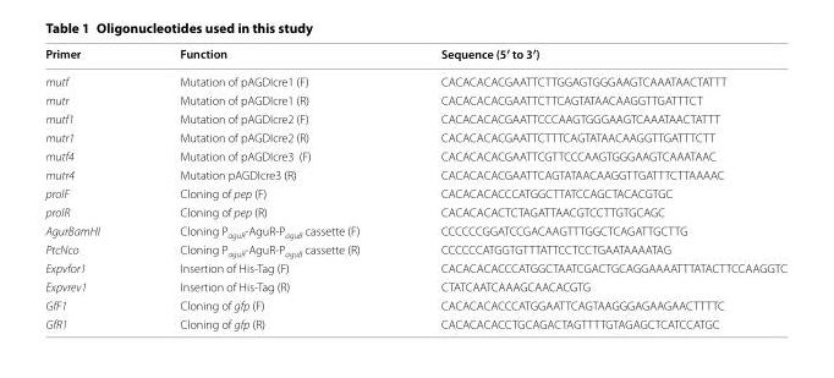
<table><thead><tr><td>Primer</td><td>Function</td><td>Sequence (5′ to 3′)</td></tr></thead><tbody><tr><td>mutf</td><td>Mutation of pAGDIcre1 (F)</td><td>CACACACACGAATTCTTGGAGTGGGAAGTCAAATAACTATTT</td></tr><tr><td>mutr</td><td>Mutation of pAGDIcre1 (R)</td><td>CACACACACGAATTCTTCAGTATAACAAGGTTGATTTCT</td></tr><tr><td>mutf1</td><td>Mutation of pAGDIcre2 (F)</td><td>CACACACACGAATTCCCAAGTGGGAAGTCAAATAACTATTT</td></tr><tr><td>mutr1</td><td>Mutation of pAGDIcre2 (R)</td><td>CACACACACGAATTCTTTCAGTATAACAAGGTTGATTTCTT</td></tr><tr><td>mutf4</td><td>Mutation of pAGDIcre3 (F)</td><td>CACACACACGAATTCGTTCCCAAGTGGGAAGTCAAATAAC</td></tr><tr><td>mutr4</td><td>Mutation pAGDIcre3 (R)</td><td>CACACACACGAATTCAGTATAACAAGGTTGATTTCTTAAAAC</td></tr><tr><td>prolF</td><td>Cloning of pep (F)</td><td>CACACACACCCATGGCTTATCCAGCTACACGTGC</td></tr><tr><td>prolR</td><td>Cloning of pep (R)</td><td>CACACACACTCTAGATTAACGTCCTTGTGCAGC</td></tr><tr><td>AgurBamHI</td><td>Cloning P<sub>aguR</sub>‑AguR‑P<sub>aguB</sub> cassette (F)</td><td>CCCCCCGGATCCGACAAGTTTGGCTCAGATTGCTTG</td></tr><tr><td>PtcNco</td><td>Cloning P<sub>aguR</sub>‑AguR‑P<sub>aguB</sub> cassette (R)</td><td>CCCCCCATGGTGTTTATTCCTCCTGAATAAAATAG</td></tr><tr><td>Expvfor1</td><td>Insertion of His‑Tag (F)</td><td>CACACACACCCATGGCTAATCGACTGCAGGAAAATTTATACTTCCAAGGTC</td></tr><tr><td>Expvrev1</td><td>Insertion of His‑Tag (R)</td><td>CTATCAATCAAAGCAACACGTG</td></tr><tr><td>GfF1</td><td>Cloning of gfp (F)</td><td>CACACACACCCATGGAATTCAGTAAGGGAGAAGAACTTTTC</td></tr><tr><td>GfR1</td><td>Cloning of gfp (R)</td><td>CACACACACCTGCAGACTAGTTTTGTAGAGCTCATCCATGC</td></tr></tbody></table>